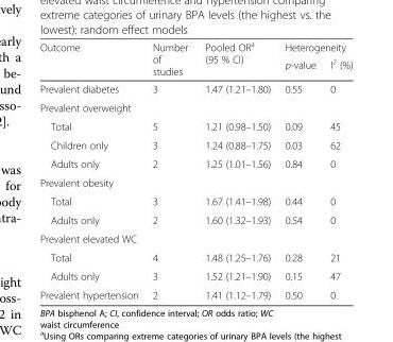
<table><thead><tr><td rowspan="2">Outcome</td><td rowspan="2">Number of studies</td><td rowspan="2">Pooled OR<sup>a</sup> (95 % CI)</td><td colspan="2">Heterogeneity</td></tr><tr><td>p-value</td><td>I<sup>2</sup> (%)</td></tr></thead><tbody><tr><td>Prevalent diabetes</td><td>3</td><td>1.47 (1.21–1.80)</td><td>0.55</td><td>0</td></tr><tr><td colspan="5">Prevalent overweight</td></tr><tr><td>Total</td><td>5</td><td>1.21 (0.98–1.50)</td><td>0.09</td><td>45</td></tr><tr><td>Children only</td><td>3</td><td>1.24 (0.88–1.75)</td><td>0.03</td><td>62</td></tr><tr><td>Adults only</td><td>2</td><td>1.25 (1.01–1.56)</td><td>0.84</td><td>0</td></tr><tr><td colspan="5">Prevalent obesity</td></tr><tr><td>Total</td><td>3</td><td>1.67 (1.41–1.98)</td><td>0.44</td><td>0</td></tr><tr><td>Adults only</td><td>2</td><td>1.60 (1.32–1.93)</td><td>0.54</td><td>0</td></tr><tr><td colspan="5">Prevalent elevated WC</td></tr><tr><td>Total</td><td>4</td><td>1.48 (1.25–1.76)</td><td>0.28</td><td>21</td></tr><tr><td>Adults only</td><td>3</td><td>1.52 (1.21–1.90)</td><td>0.15</td><td>47</td></tr><tr><td>Prevalent hypertension</td><td>2</td><td>1.41 (1.12–1.79)</td><td>0.50</td><td>0</td></tr></tbody></table>